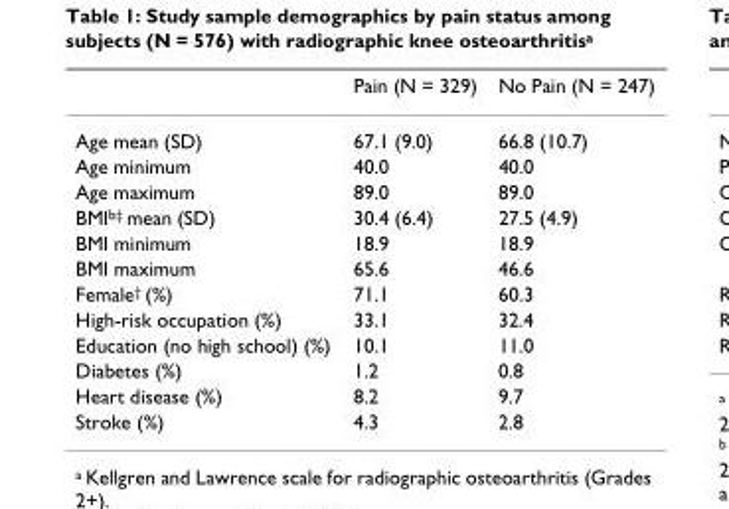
<table><thead><tr><td></td><td>Pain (N = 329)</td><td>No Pain (N = 247)</td></tr></thead><tbody><tr><td>Age mean (SD)</td><td>67.1 (9.0)</td><td>66.8 (10.7)</td></tr><tr><td>Age minimum</td><td>40.0</td><td>40.0</td></tr><tr><td>Age maximum</td><td>89.0</td><td>89.0</td></tr><tr><td>BMI<sup>b‡</sup> mean (SD)</td><td>30.4 (6.4)</td><td>27.5 (4.9)</td></tr><tr><td>BMI minimum</td><td>18.9</td><td>18.9</td></tr><tr><td>BMI maximum</td><td>65.6</td><td>46.6</td></tr><tr><td>Female<sup>†</sup> (%)</td><td>71.1</td><td>60.3</td></tr><tr><td>High-risk occupation (%)</td><td>33.1</td><td>32.4</td></tr><tr><td>Education (no high school) (%)</td><td>10.1</td><td>11.0</td></tr><tr><td>Diabetes (%)</td><td>1.2</td><td>0.8</td></tr><tr><td>Heart disease (%)</td><td>8.2</td><td>9.7</td></tr><tr><td>Stroke (%)</td><td>4.3</td><td>2.8</td></tr></tbody></table>